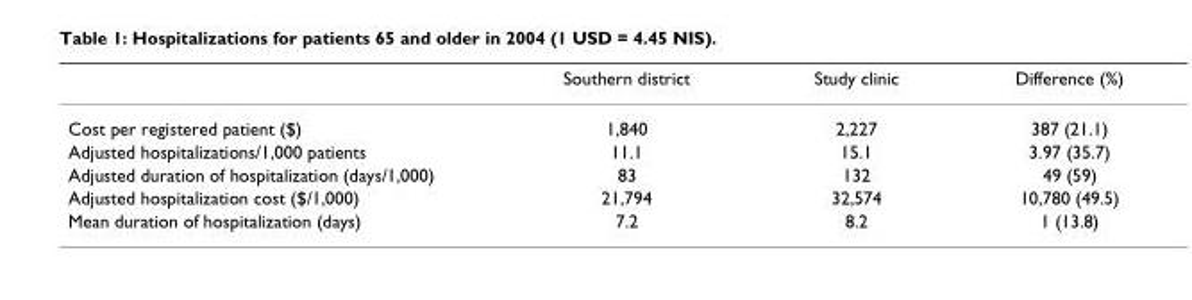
<table><thead><tr><td></td><td>Southern district</td><td>Study clinic</td><td>Difference (%)</td></tr></thead><tbody><tr><td>Cost per registered patient ($)</td><td>1,840</td><td>2,227</td><td>387 (21.1)</td></tr><tr><td>Adjusted hospitalizations/1,000 patients</td><td>11.1</td><td>15.1</td><td>3.97 (35.7)</td></tr><tr><td>Adjusted duration of hospitalization (days/1,000)</td><td>83</td><td>132</td><td>49 (59)</td></tr><tr><td>Adjusted hospitalization cost ($/1,000)</td><td>21,794</td><td>32,574</td><td>10,780 (49.5)</td></tr><tr><td>Mean duration of hospitalization (days)</td><td>7.2</td><td>8.2</td><td>1 (13.8)</td></tr></tbody></table>